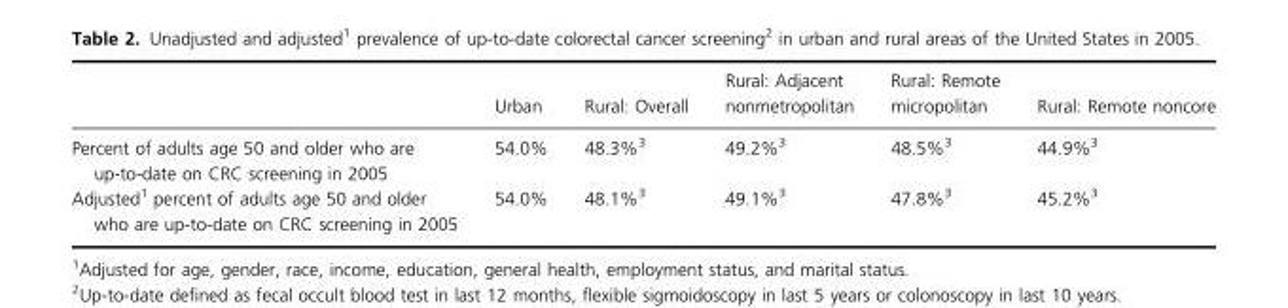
<table><thead><tr><td></td><td>Urban</td><td>Rural: Overall</td><td>Rural: Adjacent nonmetropolitan</td><td>Rural: Remote micropolitan</td><td>Rural: Remote noncore</td></tr></thead><tbody><tr><td>Percent of adults age 50 and older who are up-to-date on CRC screening in 2005</td><td>54.0%</td><td>48.3%<sup>3</sup></td><td>49.2%<sup>3</sup></td><td>48.5%<sup>3</sup></td><td>44.9%<sup>3</sup></td></tr><tr><td>Adjusted<sup>1</sup> percent of adults age 50 and older who are up-to-date on CRC screening in 2005</td><td>54.0%</td><td>48.1%<sup>3</sup></td><td>49.1%<sup>3</sup></td><td>47.8%<sup>3</sup></td><td>45.2%<sup>3</sup></td></tr></tbody></table>